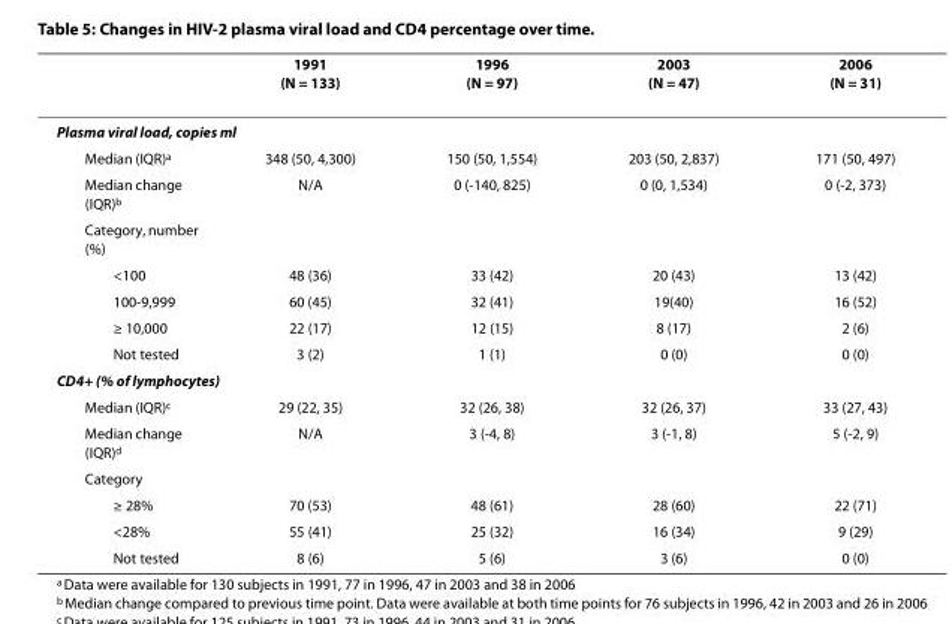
<table><thead><tr><td></td><td>1991 (N = 133)</td><td>1996 (N = 97)</td><td>2003 (N = 47)</td><td>2006 (N = 31)</td></tr></thead><tbody><tr><td colspan="5">Plasma viral load, copies ml</td></tr><tr><td>Median (IQR)<sup>a</sup></td><td>348 (50, 4,300)</td><td>150 (50, 1,554)</td><td>203 (50, 2,837)</td><td>171 (50, 497)</td></tr><tr><td>Median change (IQR)<sup>b</sup></td><td>N/A</td><td>0 (-140, 825)</td><td>0 (0, 1,534)</td><td>0 (-2, 373)</td></tr><tr><td colspan="5">Category, number (%)</td></tr><tr><td>&lt;100</td><td>48 (36)</td><td>33 (42)</td><td>20 (43)</td><td>13 (42)</td></tr><tr><td>100-9,999</td><td>60 (45)</td><td>32 (41)</td><td>19(40)</td><td>16 (52)</td></tr><tr><td>≥ 10,000</td><td>22 (17)</td><td>12 (15)</td><td>8 (17)</td><td>2 (6)</td></tr><tr><td>Not tested</td><td>3 (2)</td><td>1 (1)</td><td>0 (0)</td><td>0 (0)</td></tr><tr><td colspan="5">CD4+ (% of lymphocytes)</td></tr><tr><td>Median (IQR)<sup>c</sup></td><td>29 (22, 35)</td><td>32 (26, 38)</td><td>32 (26, 37)</td><td>33 (27, 43)</td></tr><tr><td>Median change (IQR)<sup>d</sup></td><td>N/A</td><td>3 (-4, 8)</td><td>3 (-1, 8)</td><td>5 (-2, 9)</td></tr><tr><td colspan="5">Category</td></tr><tr><td>≥ 28%</td><td>70 (53)</td><td>48 (61)</td><td>28 (60)</td><td>22 (71)</td></tr><tr><td>&lt;28%</td><td>55 (41)</td><td>25 (32)</td><td>16 (34)</td><td>9 (29)</td></tr><tr><td>Not tested</td><td>8 (6)</td><td>5 (6)</td><td>3 (6)</td><td>0 (0)</td></tr></tbody></table>